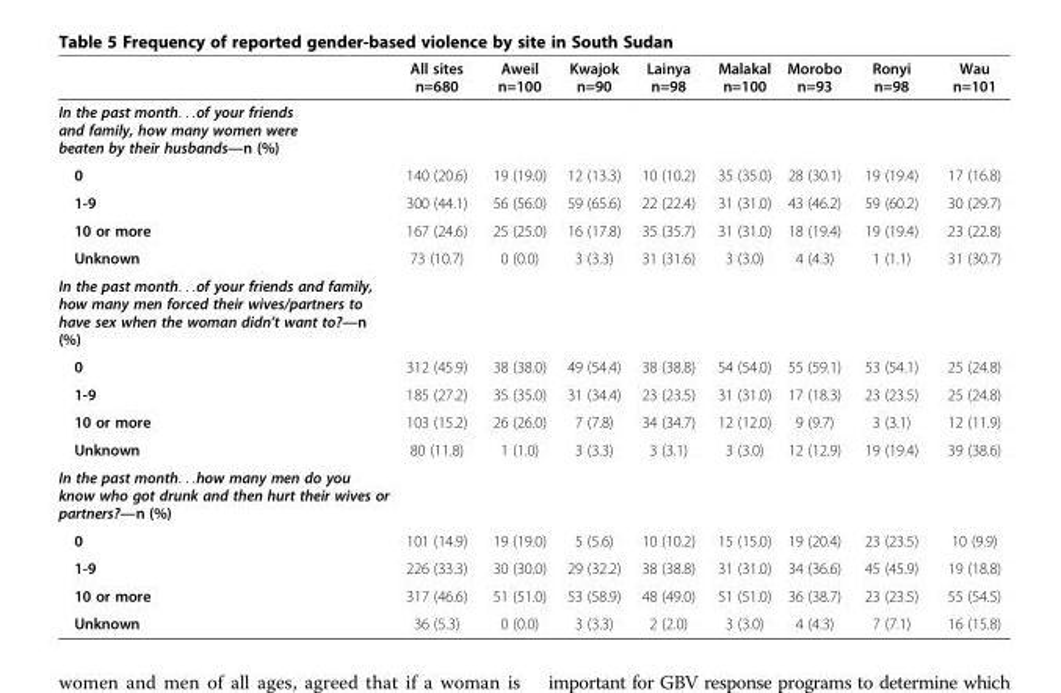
<table><thead><tr><td></td><td>All sites n=680</td><td>Aweil n=100</td><td>Kwajok n=90</td><td>Lainya n=98</td><td>Malakal n=100</td><td>Morobo n=93</td><td>Ronyi n=98</td><td>Wau n=101</td></tr></thead><tbody><tr><td colspan="9">In the past month. . .of your friends and family, how many women were beaten by their husbands—n (%)</td></tr><tr><td>0</td><td>140 (20.6)</td><td>19 (19.0)</td><td>12 (13.3)</td><td>10 (10.2)</td><td>35 (35.0)</td><td>28 (30.1)</td><td>19 (19.4)</td><td>17 (16.8)</td></tr><tr><td>1-9</td><td>300 (44.1)</td><td>56 (56.0)</td><td>59 (65.6)</td><td>22 (22.4)</td><td>31 (31.0)</td><td>43 (46.2)</td><td>59 (60.2)</td><td>30 (29.7)</td></tr><tr><td>10 or more</td><td>167 (24.6)</td><td>25 (25.0)</td><td>16 (17.8)</td><td>35 (35.7)</td><td>31 (31.0)</td><td>18 (19.4)</td><td>19 (19.4)</td><td>23 (22.8)</td></tr><tr><td>Unknown</td><td>73 (10.7)</td><td>0 (0.0)</td><td>3 (3.3)</td><td>31 (31.6)</td><td>3 (3.0)</td><td>4 (4.3)</td><td>1 (1.1)</td><td>31 (30.7)</td></tr><tr><td colspan="9">In the past month. . .of your friends and family, how many men forced their wives/partners to have sex when the woman didn’t want to?—n (%)</td></tr><tr><td>0</td><td>312 (45.9)</td><td>38 (38.0)</td><td>49 (54.4)</td><td>38 (38.8)</td><td>54 (54.0)</td><td>55 (59.1)</td><td>53 (54.1)</td><td>25 (24.8)</td></tr><tr><td>1-9</td><td>185 (27.2)</td><td>35 (35.0)</td><td>31 (34.4)</td><td>23 (23.5)</td><td>31 (31.0)</td><td>17 (18.3)</td><td>23 (23.5)</td><td>25 (24.8)</td></tr><tr><td>10 or more</td><td>103 (15.2)</td><td>26 (26.0)</td><td>7 (7.8)</td><td>34 (34.7)</td><td>12 (12.0)</td><td>9 (9.7)</td><td>3 (3.1)</td><td>12 (11.9)</td></tr><tr><td>Unknown</td><td>80 (11.8)</td><td>1 (1.0)</td><td>3 (3.3)</td><td>3 (3.1)</td><td>3 (3.0)</td><td>12 (12.9)</td><td>19 (19.4)</td><td>39 (38.6)</td></tr><tr><td colspan="9">In the past month. . .how many men do you know who got drunk and then hurt their wives or partners?—n (%)</td></tr><tr><td>0</td><td>101 (14.9)</td><td>19 (19.0)</td><td>5 (5.6)</td><td>10 (10.2)</td><td>15 (15.0)</td><td>19 (20.4)</td><td>23 (23.5)</td><td>10 (9.9)</td></tr><tr><td>1-9</td><td>226 (33.3)</td><td>30 (30.0)</td><td>29 (32.2)</td><td>38 (38.8)</td><td>31 (31.0)</td><td>34 (36.6)</td><td>45 (45.9)</td><td>19 (18.8)</td></tr><tr><td>10 or more</td><td>317 (46.6)</td><td>51 (51.0)</td><td>53 (58.9)</td><td>48 (49.0)</td><td>51 (51.0)</td><td>36 (38.7)</td><td>23 (23.5)</td><td>55 (54.5)</td></tr><tr><td>Unknown</td><td>36 (5.3)</td><td>0 (0.0)</td><td>3 (3.3)</td><td>2 (2.0)</td><td>3 (3.0)</td><td>4 (4.3)</td><td>7 (7.1)</td><td>16 (15.8)</td></tr></tbody></table>